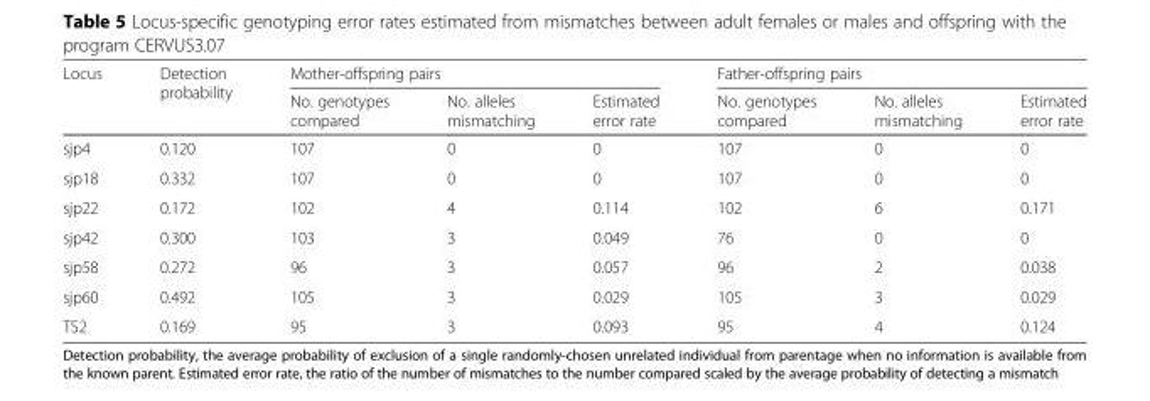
<table><thead><tr><td rowspan="2">Locus</td><td rowspan="2">Detection probability</td><td colspan="3">Mother-offspring pairs</td><td colspan="3">Father-offspring pairs</td></tr><tr><td>No. genotypes compared</td><td>No. alleles mismatching</td><td>Estimated error rate</td><td>No. genotypes compared</td><td>No. alleles mismatching</td><td>Estimated error rate</td></tr></thead><tbody><tr><td>sjp4</td><td>0.120</td><td>107</td><td>0</td><td>0</td><td>107</td><td>0</td><td>0</td></tr><tr><td>sjp18</td><td>0.332</td><td>107</td><td>0</td><td>0</td><td>107</td><td>0</td><td>0</td></tr><tr><td>sjp22</td><td>0.172</td><td>102</td><td>4</td><td>0.114</td><td>102</td><td>6</td><td>0.171</td></tr><tr><td>sjp42</td><td>0.300</td><td>103</td><td>3</td><td>0.049</td><td>76</td><td>0</td><td>0</td></tr><tr><td>sjp58</td><td>0.272</td><td>96</td><td>3</td><td>0.057</td><td>96</td><td>2</td><td>0.038</td></tr><tr><td>sjp60</td><td>0.492</td><td>105</td><td>3</td><td>0.029</td><td>105</td><td>3</td><td>0.029</td></tr><tr><td>TS2</td><td>0.169</td><td>95</td><td>3</td><td>0.093</td><td>95</td><td>4</td><td>0.124</td></tr></tbody></table>